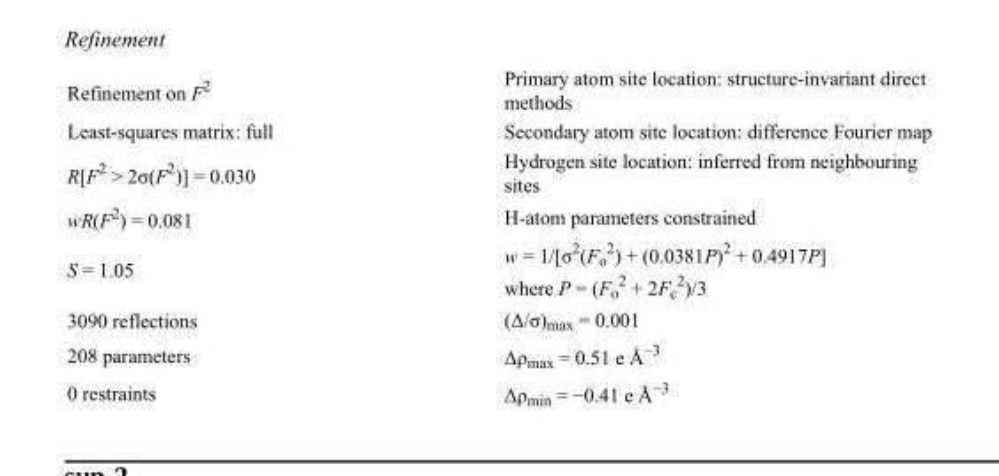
<table><tbody><tr><td>Refinement on F<sup>2</sup></td><td>Primary atom site location: structure-invariant direct methods</td></tr><tr><td>Least-squares matrix: full</td><td>Secondary atom site location: difference Fourier map</td></tr><tr><td>R[F<sup>2</sup> &gt; 2σ(F<sup>2</sup>)] = 0.030</td><td>Hydrogen site location: inferred from neighbouring sites</td></tr><tr><td>wR(F<sup>2</sup>) = 0.081</td><td>H-atom parameters constrained</td></tr><tr><td>S = 1.05</td><td>w = 1/[σ<sup>2</sup>(F<sub>o</sub> <sup>2</sup>) + (0.0381P)<sup>2</sup> + 0.4917P] where P = (F<sub>o</sub> <sup>2</sup> + 2F<sub>c</sub> <sup>2</sup>)/3</td></tr><tr><td>3090 reflections</td><td>(Δ/σ)<sub>max</sub> = 0.001</td></tr><tr><td>208 parameters</td><td>Δρ<sub>max</sub> = 0.51 e Å<sup>−3</sup></td></tr><tr><td>0 restraints</td><td>Δρ<sub>min</sub> = −0.41 e Å<sup>−3</sup></td></tr></tbody></table>